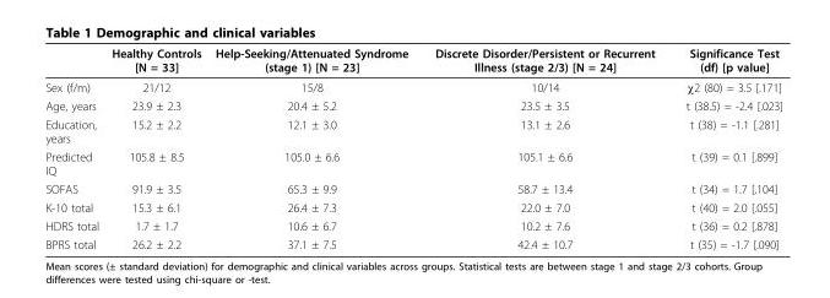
<table><thead><tr><td></td><td>Healthy Controls [N = 33]</td><td>Help-Seeking/Attenuated Syndrome (stage 1) [N = 23]</td><td>Discrete Disorder/Persistent or Recurrent Illness (stage 2/3) [N = 24]</td><td>Significance Test (df) [p value]</td></tr></thead><tbody><tr><td>Sex (f/m)</td><td>21/12</td><td>15/8</td><td>10/14</td><td>χ2 (80) = 3.5 [.171]</td></tr><tr><td>Age, years</td><td>23.9 ± 2.3</td><td>20.4 ± 5.2</td><td>23.5 ± 3.5</td><td>t (38.5) = -2.4 [.023]</td></tr><tr><td>Education, years</td><td>15.2 ± 2.2</td><td>12.1 ± 3.0</td><td>13.1 ± 2.6</td><td>t (38) = -1.1 [.281]</td></tr><tr><td>Predicted IQ</td><td>105.8 ± 8.5</td><td>105.0 ± 6.6</td><td>105.1 ± 6.6</td><td>t (39) = 0.1 [.899]</td></tr><tr><td>SOFAS</td><td>91.9 ± 3.5</td><td>65.3 ± 9.9</td><td>58.7 ± 13.4</td><td>t (34) = 1.7 [.104]</td></tr><tr><td>K-10 total</td><td>15.3 ± 6.1</td><td>26.4 ± 7.3</td><td>22.0 ± 7.0</td><td>t (40) = 2.0 [.055]</td></tr><tr><td>HDRS total</td><td>1.7 ± 1.7</td><td>10.6 ± 6.7</td><td>10.2 ± 7.6</td><td>t (36) = 0.2 [.878]</td></tr><tr><td>BPRS total</td><td>26.2 ± 2.2</td><td>37.1 ± 7.5</td><td>42.4 ± 10.7</td><td>t (35) = -1.7 [.090]</td></tr></tbody></table>